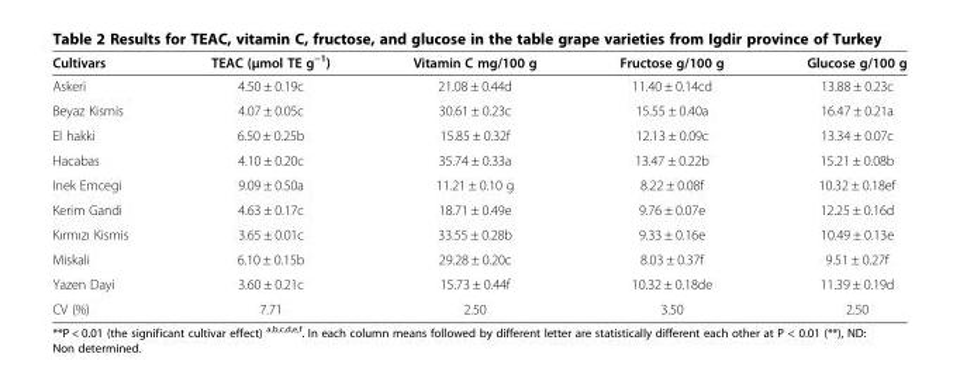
<table><thead><tr><td>Cultivars</td><td>TEAC (μmol TE g<sup>−1</sup>)</td><td>Vitamin C mg/100 g</td><td>Fructose g/100 g</td><td>Glucose g/100 g</td></tr></thead><tbody><tr><td>Askeri</td><td>4.50 ± 0.19c</td><td>21.08 ± 0.44d</td><td>11.40 ± 0.14cd</td><td>13.88 ± 0.23c</td></tr><tr><td>Beyaz Kismis</td><td>4.07 ± 0.05c</td><td>30.61 ± 0.23c</td><td>15.55 ± 0.40a</td><td>16.47 ± 0.21a</td></tr><tr><td>El hakki</td><td>6.50 ± 0.25b</td><td>15.85 ± 0.32f</td><td>12.13 ± 0.09c</td><td>13.34 ± 0.07c</td></tr><tr><td>Hacabas</td><td>4.10 ± 0.20c</td><td>35.74 ± 0.33a</td><td>13.47 ± 0.22b</td><td>15.21 ± 0.08b</td></tr><tr><td>Inek Emcegi</td><td>9.09 ± 0.50a</td><td>11.21 ± 0.10 g</td><td>8.22 ± 0.08f</td><td>10.32 ± 0.18ef</td></tr><tr><td>Kerim Gandi</td><td>4.63 ± 0.17c</td><td>18.71 ± 0.49e</td><td>9.76 ± 0.07e</td><td>12.25 ± 0.16d</td></tr><tr><td>Kırmızı Kismis</td><td>3.65 ± 0.01c</td><td>33.55 ± 0.28b</td><td>9.33 ± 0.16e</td><td>10.49 ± 0.13e</td></tr><tr><td>Miskali</td><td>6.10 ± 0.15b</td><td>29.28 ± 0.20c</td><td>8.03 ± 0.37f</td><td>9.51 ± 0.27f</td></tr><tr><td>Yazen Dayi</td><td>3.60 ± 0.21c</td><td>15.73 ± 0.44f</td><td>10.32 ± 0.18de</td><td>11.39 ± 0.19d</td></tr><tr><td>CV (%)</td><td>7.71</td><td>2.50</td><td>3.50</td><td>2.50</td></tr></tbody></table>